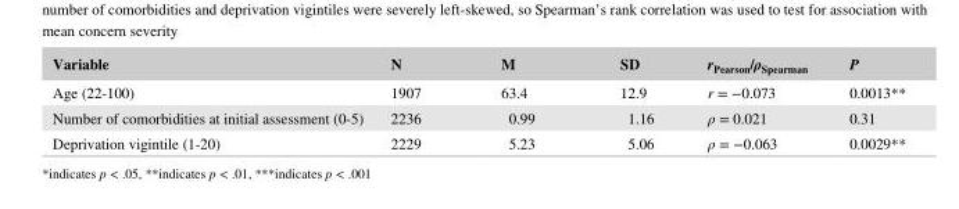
<table><thead><tr><td>Variable</td><td>N</td><td>M</td><td>SD</td><td>r<sub>Pearson</sub>/ρ<sub>Spearman</sub></td><td>P</td></tr></thead><tbody><tr><td>Age (22- 100)</td><td>1907</td><td>63.4</td><td>12.9</td><td>r = −0.073</td><td>0.0013**</td></tr><tr><td>Number of comorbidities at initial assessment (0- 5)</td><td>2236</td><td>0.99</td><td>1.16</td><td>ρ = 0.021</td><td>0.31</td></tr><tr><td>Deprivation vigintile (1- 20)</td><td>2229</td><td>5.23</td><td>5.06</td><td>ρ = −0.063</td><td>0.0029**</td></tr></tbody></table>